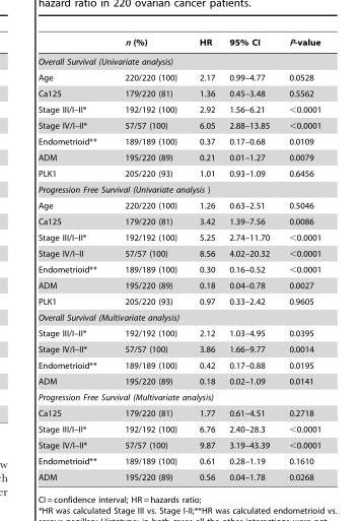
<table><thead><tr><td></td><td>n (%)</td><td>HR</td><td>95% CI</td><td>P-value</td></tr></thead><tbody><tr><td colspan="5">Overall Survival (Univariate analysis)</td></tr><tr><td>Age</td><td>220/220 (100)</td><td>2.17</td><td>0.99–4.77</td><td>0.0528</td></tr><tr><td>Ca125</td><td>179/220 (81)</td><td>1.36</td><td>0.45–3.48</td><td>0.5562</td></tr><tr><td>Stage III/I–II*</td><td>192/192 (100)</td><td>2.92</td><td>1.56–6.21</td><td>&lt;0.0001</td></tr><tr><td>Stage IV/I–II*</td><td>57/57 (100)</td><td>6.05</td><td>2.88–13.85</td><td>&lt;0.0001</td></tr><tr><td>Endometrioid**</td><td>189/189 (100)</td><td>0.37</td><td>0.17–0.68</td><td>0.0109</td></tr><tr><td>ADM</td><td>195/220 (89)</td><td>0.21</td><td>0.01–1.27</td><td>0.0079</td></tr><tr><td>PLK1</td><td>205/220 (93)</td><td>1.01</td><td>0.93–1.09</td><td>0.6456</td></tr><tr><td colspan="5">Progression Free Survival (Univariate analysis )</td></tr><tr><td>Age</td><td>220/220 (100)</td><td>1.26</td><td>0.63–2.51</td><td>0.5046</td></tr><tr><td>Ca125</td><td>179/220 (81)</td><td>3.42</td><td>1.39–7.56</td><td>0.0086</td></tr><tr><td>Stage III/I–II*</td><td>192/192 (100)</td><td>5.25</td><td>2.74–11.70</td><td>&lt;0.0001</td></tr><tr><td>Stage IV/I–II</td><td>57/57 (100)</td><td>8.56</td><td>4.02–20.32</td><td>&lt;0.0001</td></tr><tr><td>Endometrioid**</td><td>189/189 (100)</td><td>0.30</td><td>0.16–0.52</td><td>&lt;0.0001</td></tr><tr><td>ADM</td><td>195/220 (89)</td><td>0.18</td><td>0.04–0.78</td><td>0.0027</td></tr><tr><td>PLK1</td><td>205/220 (93)</td><td>0.97</td><td>0.33–2.42</td><td>0.9605</td></tr><tr><td colspan="5">Overall Survival (Multivariate analysis)</td></tr><tr><td>Stage III/I–II*</td><td>192/192 (100)</td><td>2.12</td><td>1.03–4.95</td><td>0.0395</td></tr><tr><td>Stage IV/I–II*</td><td>57/57 (100)</td><td>3.86</td><td>1.66–9.77</td><td>0.0014</td></tr><tr><td>Endometrioid**</td><td>189/189 (100)</td><td>0.42</td><td>0.17–0.88</td><td>0.0195</td></tr><tr><td>ADM</td><td>195/220 (89)</td><td>0.18</td><td>0.02–1.09</td><td>0.0141</td></tr><tr><td colspan="5">Progression Free Survival (Multivariate analysis)</td></tr><tr><td>Ca125</td><td>179/220 (81)</td><td>1.77</td><td>0.61–4.51</td><td>0.2718</td></tr><tr><td>Stage III/I–II*</td><td>192/192 (100)</td><td>6.76</td><td>2.40–28.3</td><td>&lt;0.0001</td></tr><tr><td>Stage IV/I–II*</td><td>57/57 (100)</td><td>9.87</td><td>3.19–43.39</td><td>&lt;0.0001</td></tr><tr><td>Endometrioid**</td><td>189/189 (100)</td><td>0.61</td><td>0.28–1.19</td><td>0.1610</td></tr><tr><td>ADM</td><td>195/220 (89)</td><td>0.56</td><td>0.04–1.78</td><td>0.0268</td></tr></tbody></table>